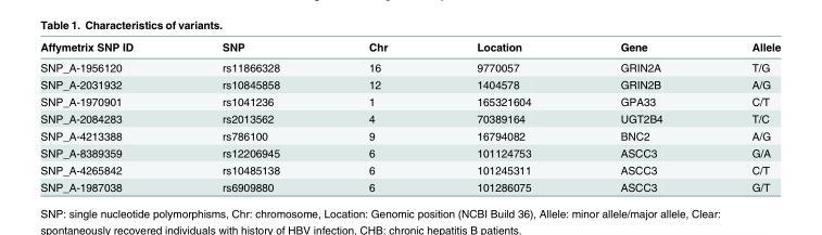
<table><thead><tr><td>Affymetrix SNP ID</td><td>SNP</td><td>Chr</td><td>Location</td><td>Gene</td><td>Allele</td></tr></thead><tbody><tr><td>SNP_A-1956120</td><td>rs11866328</td><td>16</td><td>9770057</td><td>GRIN2A</td><td>T/G</td></tr><tr><td>SNP_A-2031932</td><td>rs10845858</td><td>12</td><td>1404578</td><td>GRIN2B</td><td>A/G</td></tr><tr><td>SNP_A-1970901</td><td>rs1041236</td><td>1</td><td>165321604</td><td>GPA33</td><td>C/T</td></tr><tr><td>SNP_A-2084283</td><td>rs2013562</td><td>4</td><td>70389164</td><td>UGT2B4</td><td>T/C</td></tr><tr><td>SNP_A-4213388</td><td>rs786100</td><td>9</td><td>16794082</td><td>BNC2</td><td>A/G</td></tr><tr><td>SNP_A-8389359</td><td>rs12206945</td><td>6</td><td>101124753</td><td>ASCC3</td><td>G/A</td></tr><tr><td>SNP_A-4265842</td><td>rs10485138</td><td>6</td><td>101245311</td><td>ASCC3</td><td>C/T</td></tr><tr><td>SNP_A-1987038</td><td>rs6909880</td><td>6</td><td>101286075</td><td>ASCC3</td><td>G/T</td></tr></tbody></table>